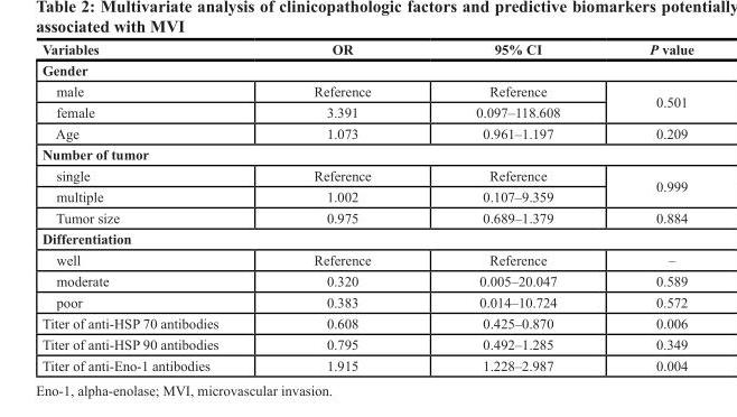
<table><thead><tr><td>Variables</td><td>OR</td><td>95% CI</td><td>P value</td></tr></thead><tbody><tr><td colspan="4">Gender</td></tr><tr><td>male</td><td>Reference</td><td>Reference</td><td rowspan="2">0.501</td></tr><tr><td>female</td><td>3.391</td><td>0.097–118.608</td></tr><tr><td>Age</td><td>1.073</td><td>0.961–1.197</td><td>0.209</td></tr><tr><td colspan="4">Number of tumor</td></tr><tr><td>single</td><td>Reference</td><td>Reference</td><td rowspan="2">0.999</td></tr><tr><td>multiple</td><td>1.002</td><td>0.107–9.359</td></tr><tr><td>Tumor size</td><td>0.975</td><td>0.689–1.379</td><td>0.884</td></tr><tr><td colspan="4">Differentiation</td></tr><tr><td>well</td><td>Reference</td><td>Reference</td><td>–</td></tr><tr><td>moderate</td><td>0.320</td><td>0.005–20.047</td><td>0.589</td></tr><tr><td>poor</td><td>0.383</td><td>0.014–10.724</td><td>0.572</td></tr><tr><td>Titer of anti-HSP 70 antibodies</td><td>0.608</td><td>0.425–0.870</td><td>0.006</td></tr><tr><td>Titer of anti-HSP 90 antibodies</td><td>0.795</td><td>0.492–1.285</td><td>0.349</td></tr><tr><td>Titer of anti-Eno-1 antibodies</td><td>1.915</td><td>1.228–2.987</td><td>0.004</td></tr></tbody></table>